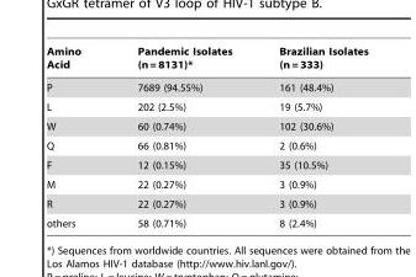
<table><thead><tr><td>Amino Acid</td><td>Pandemic Isolates (n = 8131)*</td><td>Brazilian Isolates (n = 333)</td></tr></thead><tbody><tr><td>P</td><td>7689 (94.55%)</td><td>161 (48.4%)</td></tr><tr><td>L</td><td>202 (2.5%)</td><td>19 (5.7%)</td></tr><tr><td>W</td><td>60 (0.74%)</td><td>102 (30.6%)</td></tr><tr><td>Q</td><td>66 (0.81%)</td><td>2 (0.6%)</td></tr><tr><td>F</td><td>12 (0.15%)</td><td>35 (10.5%)</td></tr><tr><td>M</td><td>22 (0.27%)</td><td>3 (0.9%)</td></tr><tr><td>R</td><td>22 (0.27%)</td><td>3 (0.9%)</td></tr><tr><td>others</td><td>58 (0.71%)</td><td>8 (2.4%)</td></tr></tbody></table>